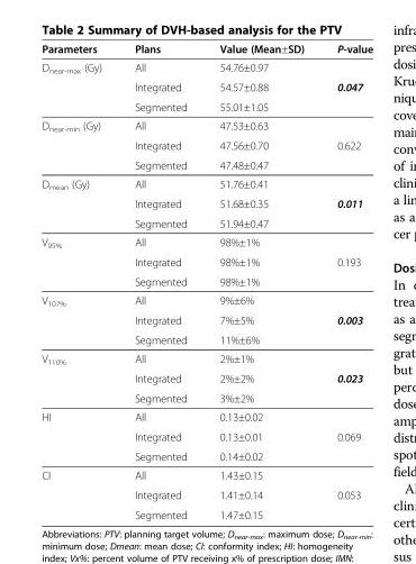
<table><thead><tr><td>Parameters</td><td>Plans</td><td>Value (Mean±SD)</td><td>P-value</td></tr></thead><tbody><tr><td rowspan="3">D<sub>near-max</sub> (Gy)</td><td>All</td><td>54.76±0.97</td><td></td></tr><tr><td>Integrated</td><td>54.57±0.88</td><td>0.047</td></tr><tr><td>Segmented</td><td>55.01±1.05</td><td></td></tr><tr><td rowspan="3">D<sub>near-min</sub> (Gy)</td><td>All</td><td>47.53±0.63</td><td></td></tr><tr><td>Integrated</td><td>47.56±0.70</td><td>0.622</td></tr><tr><td>Segmented</td><td>47.48±0.47</td><td></td></tr><tr><td rowspan="3">D<sub>mean</sub> (Gy)</td><td>All</td><td>51.76±0.41</td><td></td></tr><tr><td>Integrated</td><td>51.68±0.35</td><td>0.011</td></tr><tr><td>Segmented</td><td>51.94±0.47</td><td></td></tr><tr><td rowspan="3">V<sub>95%</sub></td><td>All</td><td>98%±1%</td><td></td></tr><tr><td>Integrated</td><td>98%±1%</td><td>0.193</td></tr><tr><td>Segmented</td><td>98%±1%</td><td></td></tr><tr><td rowspan="3">V<sub>107%</sub></td><td>All</td><td>9%±6%</td><td></td></tr><tr><td>Integrated</td><td>7%±5%</td><td>0.003</td></tr><tr><td>Segmented</td><td>11%±6%</td><td></td></tr><tr><td rowspan="3">V<sub>110%</sub></td><td>All</td><td>2%±1%</td><td></td></tr><tr><td>Integrated</td><td>2%±2%</td><td>0.023</td></tr><tr><td>Segmented</td><td>3%±2%</td><td></td></tr><tr><td rowspan="3">HI</td><td>All</td><td>0.13±0.02</td><td></td></tr><tr><td>Integrated</td><td>0.13±0.01</td><td>0.069</td></tr><tr><td>Segmented</td><td>0.14±0.02</td><td></td></tr><tr><td rowspan="3">CI</td><td>All</td><td>1.43±0.15</td><td></td></tr><tr><td>Integrated</td><td>1.41±0.14</td><td>0.053</td></tr><tr><td>Segmented</td><td>1.47±0.15</td><td></td></tr></tbody></table>